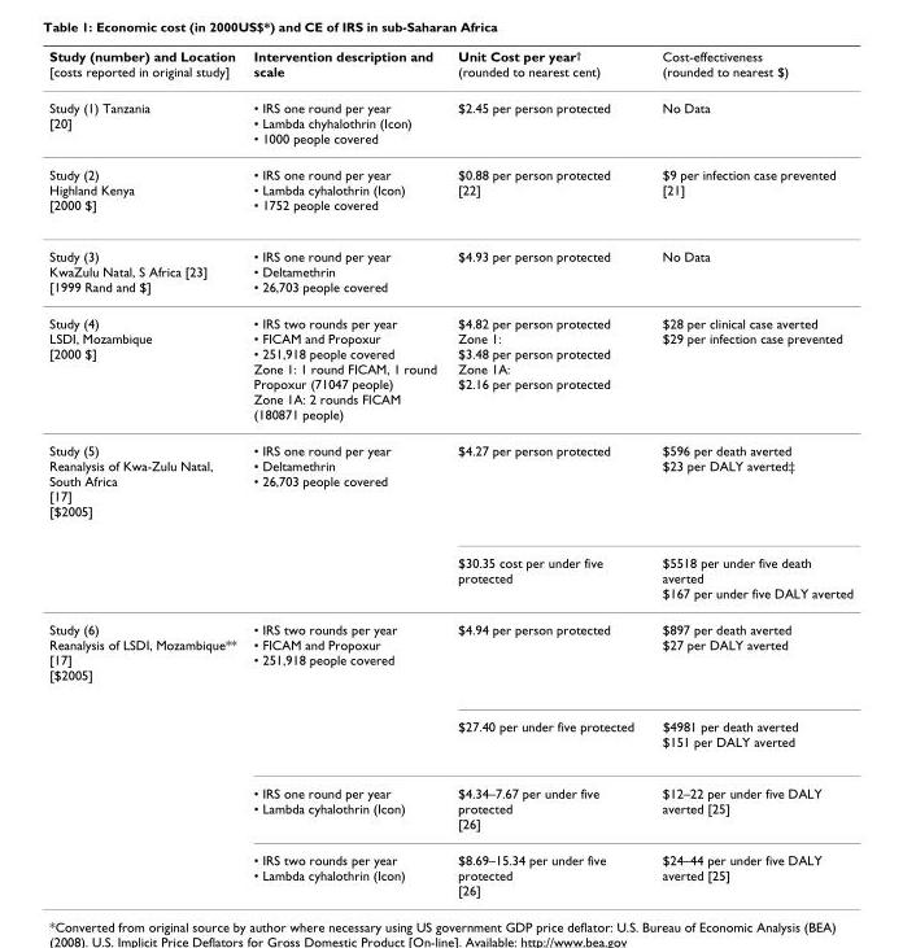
<table><thead><tr><td>Study (number) and Location [costs reported in original study]</td><td>Intervention description and scale</td><td>Unit Cost per year<sup>†</sup> (rounded to nearest cent)</td><td>Cost-effectiveness (rounded to nearest $)</td></tr></thead><tbody><tr><td>Study (1) Tanzania [20]</td><td>• IRS one round per year • Lambda chyhalothrin (Icon) • 1000 people covered</td><td>$2.45 per person protected</td><td>No Data</td></tr><tr><td>Study (2) Highland Kenya [2000 $]</td><td>• IRS one round per year • Lambda cyhalothrin (Icon) • 1752 people covered</td><td>$0.88 per person protected [22]</td><td>$9 per infection case prevented [21]</td></tr><tr><td>Study (3) KwaZulu Natal, S Africa [23] [1999 Rand and $]</td><td>• IRS one round per year • Deltamethrin • 26,703 people covered</td><td>$4.93 per person protected</td><td>No Data</td></tr><tr><td>Study (4) LSDI, Mozambique [2000 $]</td><td>• IRS two rounds per year • FICAM and Propoxur • 251,918 people covered Zone 1: 1 round FICAM, 1 round Propoxur (71047 people) Zone 1A: 2 rounds FICAM (180871 people)</td><td>$4.82 per person protected Zone 1: $3.48 per person protected Zone 1A: $2.16 per person protected</td><td>$28 per clinical case averted $29 per infection case prevented</td></tr><tr><td rowspan="2">Study (5) Reanalysis of Kwa-Zulu Natal, South Africa [17] [$2005]</td><td>• IRS one round per year • Deltamethrin • 26,703 people covered</td><td>$4.27 per person protected</td><td>$596 per death averted $23 per DALY averted‡</td></tr><tr><td></td><td>$30.35 cost per under five protected</td><td>$5518 per under five death averted $167 per under five DALY averted</td></tr><tr><td rowspan="4">Study (6) Reanalysis of LSDI, Mozambique** [17] [$2005]</td><td>• IRS two rounds per year • FICAM and Propoxur • 251,918 people covered</td><td>$4.94 per person protected</td><td>$897 per death averted $27 per DALY averted</td></tr><tr><td></td><td>$27.40 per under five protected</td><td>$4981 per death averted $151 per DALY averted</td></tr><tr><td>• IRS one round per year • Lambda cyhalothrin (Icon)</td><td>$4.34–7.67 per under five protected [26]</td><td>$12–22 per under five DALY averted [25]</td></tr><tr><td>• IRS two rounds per year • Lambda cyhalothrin (Icon)</td><td>$8.69–15.34 per under five protected [26]</td><td>$24–44 per under five DALY averted [25]</td></tr></tbody></table>